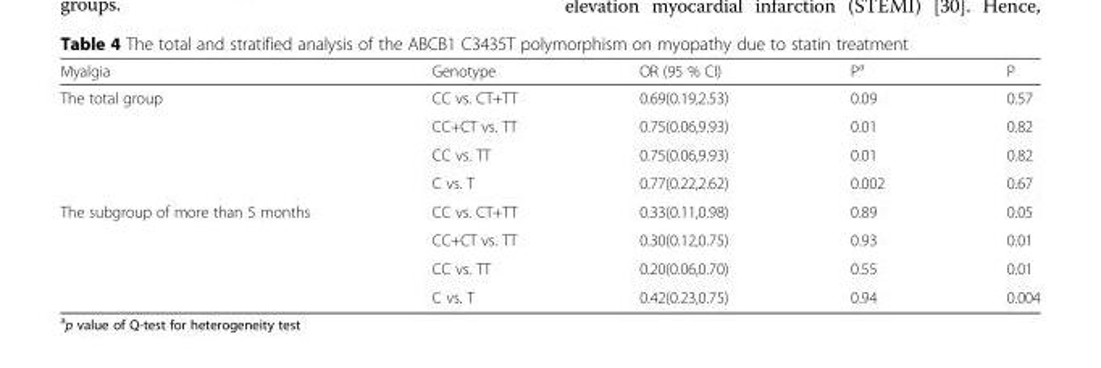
<table><thead><tr><td>Myalgia</td><td>Genotype</td><td>OR (95 % CI)</td><td>P<sup>a</sup></td><td>P</td></tr></thead><tbody><tr><td rowspan="4">The total group</td><td>CC vs. CT+TT</td><td>0.69(0.19,2.53)</td><td>0.09</td><td>0.57</td></tr><tr><td>CC+CT vs. TT</td><td>0.75(0.06,9.93)</td><td>0.01</td><td>0.82</td></tr><tr><td>CC vs. TT</td><td>0.75(0.06,9.93)</td><td>0.01</td><td>0.82</td></tr><tr><td>C vs. T</td><td>0.77(0.22,2.62)</td><td>0.002</td><td>0.67</td></tr><tr><td rowspan="4">The subgroup of more than 5 months</td><td>CC vs. CT+TT</td><td>0.33(0.11,0.98)</td><td>0.89</td><td>0.05</td></tr><tr><td>CC+CT vs. TT</td><td>0.30(0.12,0.75)</td><td>0.93</td><td>0.01</td></tr><tr><td>CC vs. TT</td><td>0.20(0.06,0.70)</td><td>0.55</td><td>0.01</td></tr><tr><td>C vs. T</td><td>0.42(0.23,0.75)</td><td>0.94</td><td>0.004</td></tr></tbody></table>